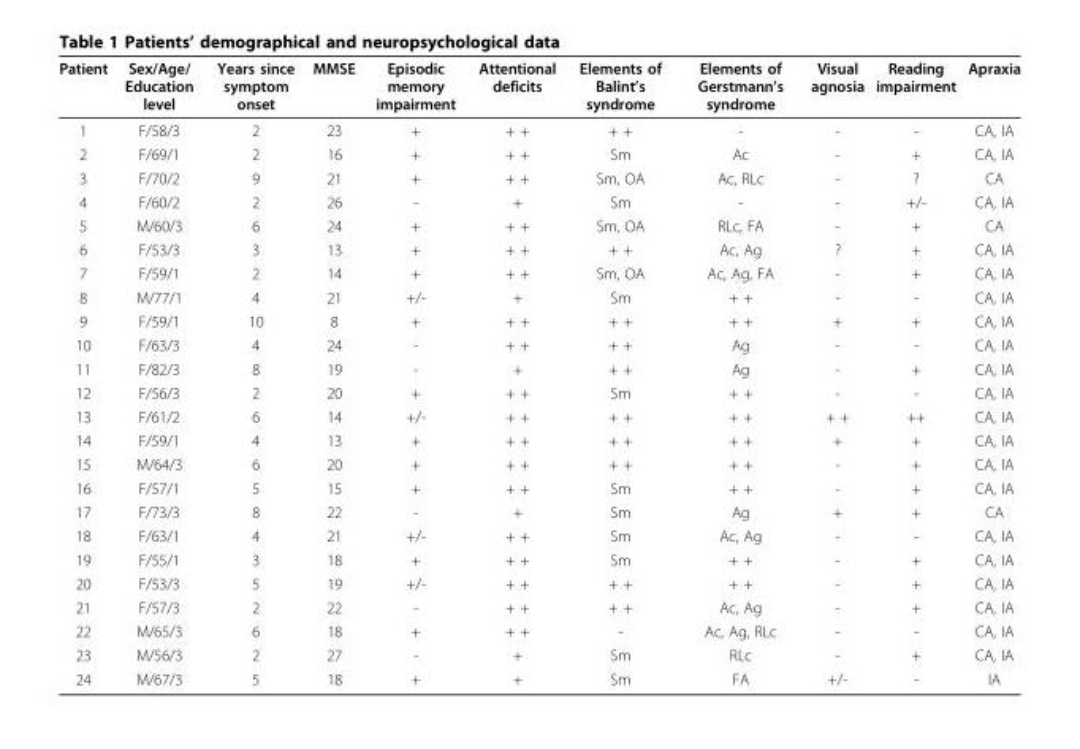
<table><thead><tr><td>Patient</td><td>Sex/Age/ Education level</td><td>Years since symptom onset</td><td>MMSE</td><td>Episodic memory impairment</td><td>Attentional deficits</td><td>Elements of Balint’s syndrome</td><td>Elements of Gerstmann’s syndrome</td><td>Visual agnosia</td><td>Reading impairment</td><td>Apraxia</td></tr></thead><tbody><tr><td>1</td><td>F/58/3</td><td>2</td><td>23</td><td>+</td><td>+ +</td><td>+ +</td><td>-</td><td>-</td><td>-</td><td>CA, IA</td></tr><tr><td>2</td><td>F/69/1</td><td>2</td><td>16</td><td>+</td><td>+ +</td><td>Sm</td><td>Ac</td><td>-</td><td>+</td><td>CA, IA</td></tr><tr><td>3</td><td>F/70/2</td><td>9</td><td>21</td><td>+</td><td>+ +</td><td>Sm, OA</td><td>Ac, RLc</td><td>-</td><td>?</td><td>CA</td></tr><tr><td>4</td><td>F/60/2</td><td>2</td><td>26</td><td>-</td><td>+</td><td>Sm</td><td>-</td><td>-</td><td>+/-</td><td>CA, IA</td></tr><tr><td>5</td><td>M/60/3</td><td>6</td><td>24</td><td>+</td><td>+ +</td><td>Sm, OA</td><td>RLc, FA</td><td>-</td><td>+</td><td>CA</td></tr><tr><td>6</td><td>F/53/3</td><td>3</td><td>13</td><td>+</td><td>+ +</td><td>+ +</td><td>Ac, Ag</td><td>?</td><td>+</td><td>CA, IA</td></tr><tr><td>7</td><td>F/59/1</td><td>2</td><td>14</td><td>+</td><td>+ +</td><td>Sm, OA</td><td>Ac, Ag, FA</td><td>-</td><td>+</td><td>CA, IA</td></tr><tr><td>8</td><td>M/77/1</td><td>4</td><td>21</td><td>+/-</td><td>+</td><td>Sm</td><td>+ +</td><td>-</td><td>-</td><td>CA, IA</td></tr><tr><td>9</td><td>F/59/1</td><td>10</td><td>8</td><td>+</td><td>+ +</td><td>+ +</td><td>+ +</td><td>+</td><td>+</td><td>CA, IA</td></tr><tr><td>10</td><td>F/63/3</td><td>4</td><td>24</td><td>-</td><td>+ +</td><td>+ +</td><td>Ag</td><td>-</td><td>-</td><td>CA, IA</td></tr><tr><td>11</td><td>F/82/3</td><td>8</td><td>19</td><td>-</td><td>+</td><td>+ +</td><td>Ag</td><td>-</td><td>+</td><td>CA, IA</td></tr><tr><td>12</td><td>F/56/3</td><td>2</td><td>20</td><td>+</td><td>+ +</td><td>Sm</td><td>+ +</td><td>-</td><td>-</td><td>CA, IA</td></tr><tr><td>13</td><td>F/61/2</td><td>6</td><td>14</td><td>+/-</td><td>+ +</td><td>+ +</td><td>+ +</td><td>+ +</td><td>++</td><td>CA, IA</td></tr><tr><td>14</td><td>F/59/1</td><td>4</td><td>13</td><td>+</td><td>+ +</td><td>+ +</td><td>+ +</td><td>+</td><td>+</td><td>CA, IA</td></tr><tr><td>15</td><td>M/64/3</td><td>6</td><td>20</td><td>+</td><td>+ +</td><td>+ +</td><td>+ +</td><td>-</td><td>+</td><td>CA, IA</td></tr><tr><td>16</td><td>F/57/1</td><td>5</td><td>15</td><td>+</td><td>+ +</td><td>Sm</td><td>+ +</td><td>-</td><td>+</td><td>CA, IA</td></tr><tr><td>17</td><td>F/73/3</td><td>8</td><td>22</td><td>-</td><td>+</td><td>Sm</td><td>Ag</td><td>+</td><td>+</td><td>CA</td></tr><tr><td>18</td><td>F/63/1</td><td>4</td><td>21</td><td>+/-</td><td>+ +</td><td>Sm</td><td>Ac, Ag</td><td>-</td><td>-</td><td>CA, IA</td></tr><tr><td>19</td><td>F/55/1</td><td>3</td><td>18</td><td>+</td><td>+ +</td><td>Sm</td><td>+ +</td><td>-</td><td>+</td><td>CA, IA</td></tr><tr><td>20</td><td>F/53/3</td><td>5</td><td>19</td><td>+/-</td><td>+ +</td><td>+ +</td><td>+ +</td><td>-</td><td>+</td><td>CA, IA</td></tr><tr><td>21</td><td>F/57/3</td><td>2</td><td>22</td><td>-</td><td>+ +</td><td>+ +</td><td>Ac, Ag</td><td>-</td><td>+</td><td>CA, IA</td></tr><tr><td>22</td><td>M/65/3</td><td>6</td><td>18</td><td>+</td><td>+ +</td><td>-</td><td>Ac, Ag, RLc</td><td>-</td><td>-</td><td>CA, IA</td></tr><tr><td>23</td><td>M/56/3</td><td>2</td><td>27</td><td>-</td><td>+</td><td>Sm</td><td>RLc</td><td>-</td><td>+</td><td>CA, IA</td></tr><tr><td>24</td><td>M/67/3</td><td>5</td><td>18</td><td>+</td><td>+</td><td>Sm</td><td>FA</td><td>+/-</td><td>-</td><td>IA</td></tr></tbody></table>